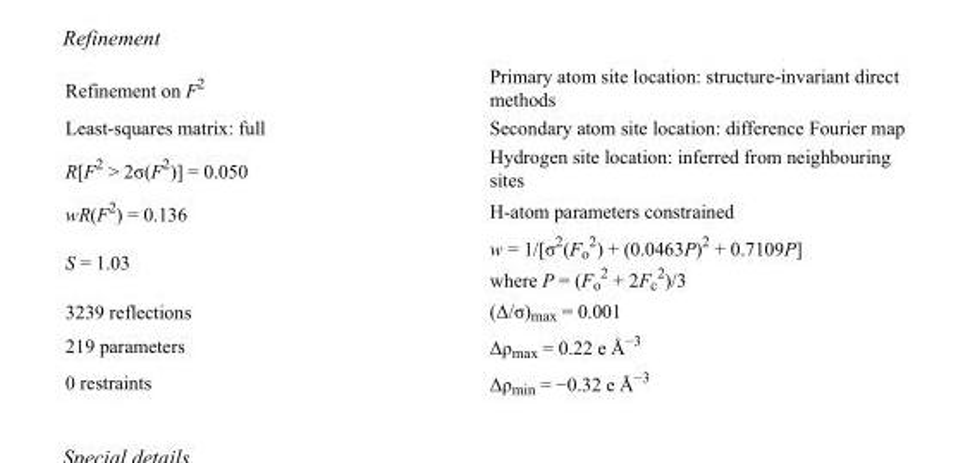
<table><tbody><tr><td>Refinement on F<sup>2</sup></td><td>Primary atom site location: structure-invariant direct methods</td></tr><tr><td>Least-squares matrix: full</td><td>Secondary atom site location: difference Fourier map</td></tr><tr><td>R[F<sup>2</sup> &gt; 2σ(F<sup>2</sup>)] = 0.050</td><td>Hydrogen site location: inferred from neighbouring sites</td></tr><tr><td>wR(F<sup>2</sup>) = 0.136</td><td>H-atom parameters constrained</td></tr><tr><td>S = 1.03</td><td>w = 1/[σ<sup>2</sup>(F<sub>o</sub> <sup>2</sup>) + (0.0463P)<sup>2</sup> + 0.7109P] where P = (F<sub>o</sub> <sup>2</sup> + 2F<sub>c</sub> <sup>2</sup>)/3</td></tr><tr><td>3239 reflections</td><td>(Δ/σ)<sub>max</sub> = 0.001</td></tr><tr><td>219 parameters</td><td>Δρ<sub>max</sub> = 0.22 e Å<sup>−3</sup></td></tr><tr><td>0 restraints</td><td>Δρ<sub>min</sub> = −0.32 e Å<sup>−3</sup></td></tr></tbody></table>